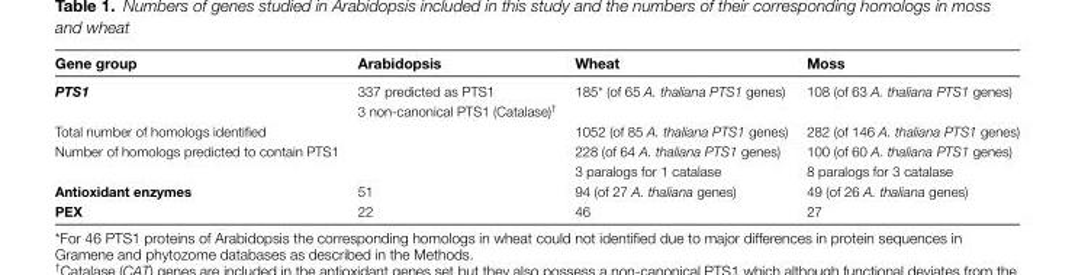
<table><thead><tr><td>Gene group</td><td>Arabidopsis</td><td>Wheat</td><td>Moss</td></tr></thead><tbody><tr><td>PTS1</td><td>337 predicted as PTS1 3 non-canonical PTS1 (Catalase)<sup>†</sup></td><td>185* (of 65 A. thaliana PTS1 genes)</td><td>108 (of 63 A. thaliana PTS1 genes)</td></tr><tr><td>Total number of homologs identified</td><td></td><td>1052 (of 85 A. thaliana PTS1 genes)</td><td>282 (of 146 A. thaliana PTS1 genes)</td></tr><tr><td rowspan="2">Number of homologs predicted to contain PTS1</td><td rowspan="2"></td><td>228 (of 64 A. thaliana PTS1 genes)</td><td>100 (of 60 A. thaliana PTS1 genes)</td></tr><tr><td>3 paralogs for 1 catalase</td><td>8 paralogs for 3 catalase</td></tr><tr><td>Antioxidant enzymes</td><td>51</td><td>94 (of 27 A. thaliana genes)</td><td>49 (of 26 A. thaliana genes)</td></tr><tr><td>PEX</td><td>22</td><td>46</td><td>27</td></tr></tbody></table>